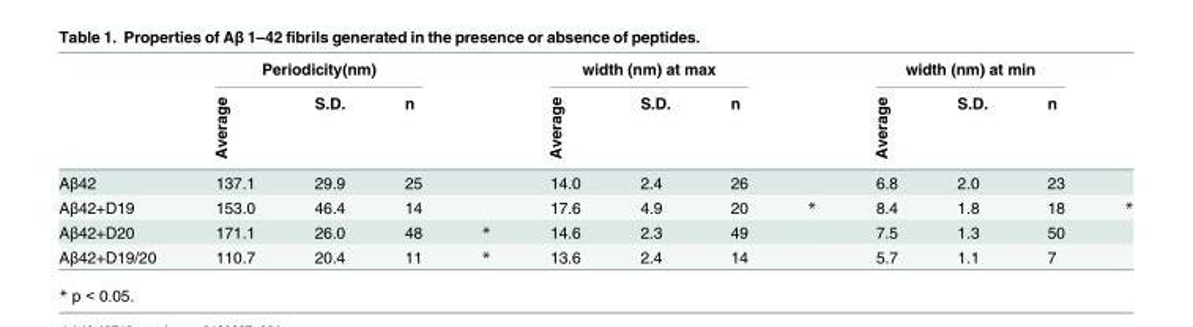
<table><thead><tr><td rowspan="2"></td><td colspan="3">Periodicity(nm)</td><td rowspan="2"></td><td colspan="3">width (nm) at max</td><td rowspan="2"></td><td colspan="3">width (nm) at min</td><td rowspan="2"></td></tr><tr><td>Average</td><td>S.D.</td><td>n</td><td>Average</td><td>S.D.</td><td>n</td><td>Average</td><td>S.D.</td><td>n</td></tr></thead><tbody><tr><td>Aβ42</td><td>137.1</td><td>29.9</td><td>25</td><td></td><td>14.0</td><td>2.4</td><td>26</td><td></td><td>6.8</td><td>2.0</td><td>23</td><td></td></tr><tr><td>Aβ42+D19</td><td>153.0</td><td>46.4</td><td>14</td><td></td><td>17.6</td><td>4.9</td><td>20</td><td>*</td><td>8.4</td><td>1.8</td><td>18</td><td>*</td></tr><tr><td>Aβ42+D20</td><td>171.1</td><td>26.0</td><td>48</td><td>*</td><td>14.6</td><td>2.3</td><td>49</td><td></td><td>7.5</td><td>1.3</td><td>50</td><td></td></tr><tr><td>Aβ42+D19/20</td><td>110.7</td><td>20.4</td><td>11</td><td>*</td><td>13.6</td><td>2.4</td><td>14</td><td></td><td>5.7</td><td>1.1</td><td>7</td><td></td></tr></tbody></table>